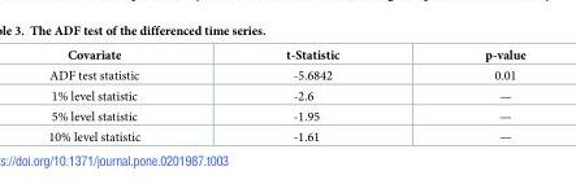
<table><thead><tr><td>Covariate</td><td>t-Statistic</td><td>p-value</td></tr></thead><tbody><tr><td>ADF test statistic</td><td>-5.6842</td><td>0.01</td></tr><tr><td>1% level statistic</td><td>-2.6</td><td>—</td></tr><tr><td>5% level statistic</td><td>-1.95</td><td>—</td></tr><tr><td>10% level statistic</td><td>-1.61</td><td>—</td></tr></tbody></table>